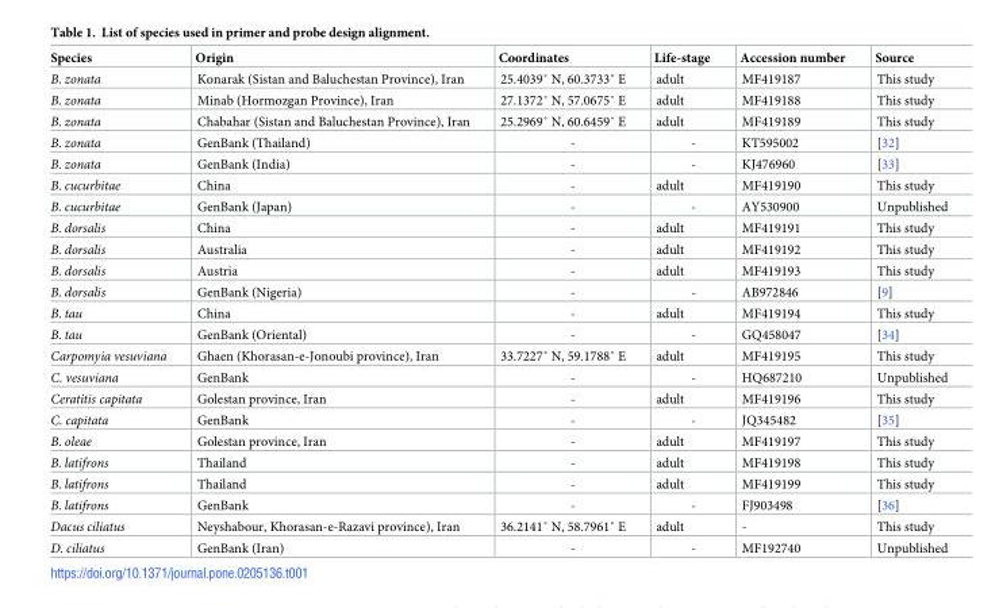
<table><thead><tr><td>Species</td><td>Origin</td><td>Coordinates</td><td>Life-stage</td><td>Accession number</td><td>Source</td></tr></thead><tbody><tr><td>B. zonata</td><td>Konarak (Sistan and Baluchestan Province), Iran</td><td>25.4039˚ N, 60.3733˚ E</td><td>adult</td><td>MF419187</td><td>This study</td></tr><tr><td>B. zonata</td><td>Minab (Hormozgan Province), Iran</td><td>27.1372˚ N, 57.0675˚ E</td><td>adult</td><td>MF419188</td><td>This study</td></tr><tr><td>B. zonata</td><td>Chabahar (Sistan and Baluchestan Province), Iran</td><td>25.2969˚ N, 60.6459˚ E</td><td>adult</td><td>MF419189</td><td>This study</td></tr><tr><td>B. zonata</td><td>GenBank (Thailand)</td><td>-</td><td>-</td><td>KT595002</td><td>[32]</td></tr><tr><td>B. zonata</td><td>GenBank (India)</td><td>-</td><td>-</td><td>KJ476960</td><td>[33]</td></tr><tr><td>B. cucurbitae</td><td>China</td><td>-</td><td>adult</td><td>MF419190</td><td>This study</td></tr><tr><td>B. cucurbitae</td><td>GenBank (Japan)</td><td>-</td><td>-</td><td>AY530900</td><td>Unpublished</td></tr><tr><td>B. dorsalis</td><td>China</td><td>-</td><td>adult</td><td>MF419191</td><td>This study</td></tr><tr><td>B. dorsalis</td><td>Australia</td><td>-</td><td>adult</td><td>MF419192</td><td>This study</td></tr><tr><td>B. dorsalis</td><td>Austria</td><td>-</td><td>adult</td><td>MF419193</td><td>This study</td></tr><tr><td>B. dorsalis</td><td>GenBank (Nigeria)</td><td>-</td><td>-</td><td>AB972846</td><td>[9]</td></tr><tr><td>B. tau</td><td>China</td><td>-</td><td>adult</td><td>MF419194</td><td>This study</td></tr><tr><td>B. tau</td><td>GenBank (Oriental)</td><td>-</td><td>-</td><td>GQ458047</td><td>[34]</td></tr><tr><td>Carpomyia vesuviana</td><td>Ghaen (Khorasan-e-Jonoubi province), Iran</td><td>33.7227˚ N, 59.1788˚ E</td><td>adult</td><td>MF419195</td><td>This study</td></tr><tr><td>C. vesuviana</td><td>GenBank</td><td>-</td><td>-</td><td>HQ687210</td><td>Unpublished</td></tr><tr><td>Ceratitis capitata</td><td>Golestan province, Iran</td><td>-</td><td>adult</td><td>MF419196</td><td>This study</td></tr><tr><td>C. capitata</td><td>GenBank</td><td>-</td><td>-</td><td>JQ345482</td><td>[35]</td></tr><tr><td>B. oleae</td><td>Golestan province, Iran</td><td>-</td><td>adult</td><td>MF419197</td><td>This study</td></tr><tr><td>B. latifrons</td><td>Thailand</td><td>-</td><td>adult</td><td>MF419198</td><td>This study</td></tr><tr><td>B. latifrons</td><td>Thailand</td><td>-</td><td>adult</td><td>MF419199</td><td>This study</td></tr><tr><td>B. latifrons</td><td>GenBank</td><td>-</td><td>-</td><td>FJ903498</td><td>[36]</td></tr><tr><td>Dacus ciliatus</td><td>Neyshabour, Khorasan-e-Razavi province), Iran</td><td>36.2141˚ N, 58.7961˚ E</td><td>adult</td><td>-</td><td>This study</td></tr><tr><td>D. ciliatus</td><td>GenBank (Iran)</td><td>-</td><td>-</td><td>MF192740</td><td>Unpublished</td></tr></tbody></table>